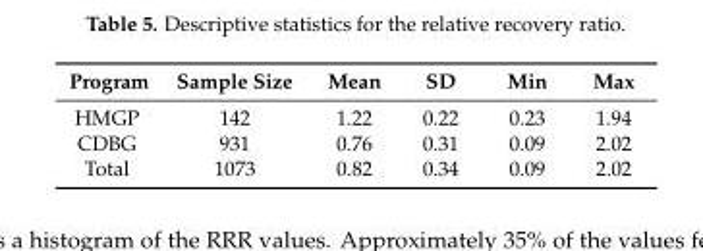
<table><thead><tr><td>Program</td><td>Sample Size</td><td>Mean</td><td>SD</td><td>Min</td><td>Max</td></tr></thead><tbody><tr><td>HMGP</td><td>142</td><td>1.22</td><td>0.22</td><td>0.23</td><td>1.94</td></tr><tr><td>CDBG</td><td>931</td><td>0.76</td><td>0.31</td><td>0.09</td><td>2.02</td></tr><tr><td>Total</td><td>1073</td><td>0.82</td><td>0.34</td><td>0.09</td><td>2.02</td></tr></tbody></table>